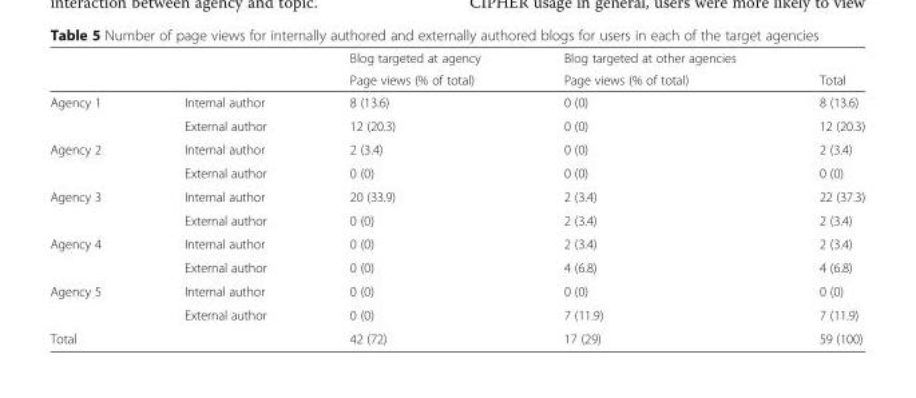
<table><thead><tr><td rowspan="2"></td><td rowspan="2"></td><td rowspan="2">Blog targeted at agency Page views (% of total)</td><td rowspan="2">Blog targeted at other agencies Page views (% of total)</td><td rowspan="2">Total</td></tr><tr></tr></thead><tbody><tr><td rowspan="2">Agency 1</td><td>Internal author</td><td>8 (13.6)</td><td>0 (0)</td><td>8 (13.6)</td></tr><tr><td>External author</td><td>12 (20.3)</td><td>0 (0)</td><td>12 (20.3)</td></tr><tr><td rowspan="2">Agency 2</td><td>Internal author</td><td>2 (3.4)</td><td>0 (0)</td><td>2 (3.4)</td></tr><tr><td>External author</td><td>0 (0)</td><td>0 (0)</td><td>0 (0)</td></tr><tr><td rowspan="2">Agency 3</td><td>Internal author</td><td>20 (33.9)</td><td>2 (3.4)</td><td>22 (37.3)</td></tr><tr><td>External author</td><td>0 (0)</td><td>2 (3.4)</td><td>2 (3.4)</td></tr><tr><td rowspan="2">Agency 4</td><td>Internal author</td><td>0 (0)</td><td>2 (3.4)</td><td>2 (3.4)</td></tr><tr><td>External author</td><td>0 (0)</td><td>4 (6.8)</td><td>4 (6.8)</td></tr><tr><td rowspan="2">Agency 5</td><td>Internal author</td><td>0 (0)</td><td>0 (0)</td><td>0 (0)</td></tr><tr><td>External author</td><td>0 (0)</td><td>7 (11.9)</td><td>7 (11.9)</td></tr><tr><td>Total</td><td></td><td>42 (72)</td><td>17 (29)</td><td>59 (100)</td></tr></tbody></table>